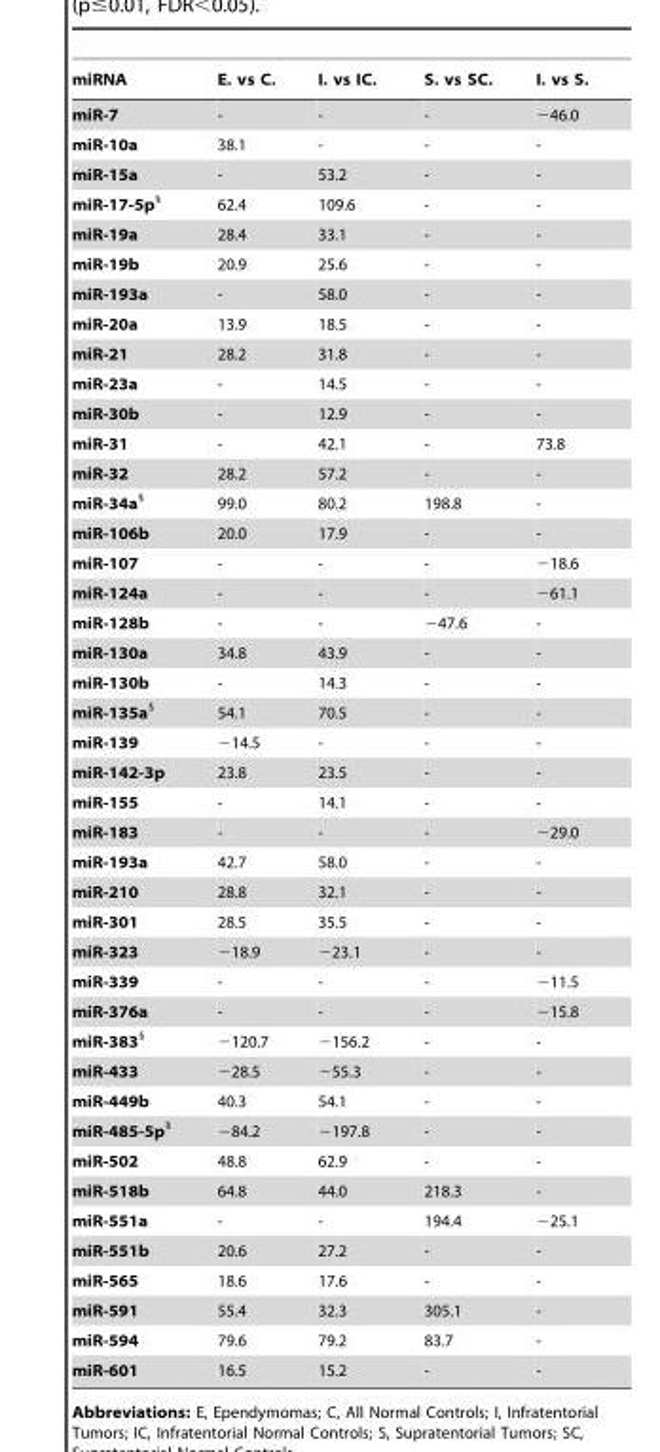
<table><thead><tr><td>miRNA</td><td>E. vs C.</td><td>I. vs IC.</td><td>S. vs SC.</td><td>I. vs S.</td></tr></thead><tbody><tr><td>miR-7</td><td>-</td><td>-</td><td>-</td><td>−46.0</td></tr><tr><td>miR-10a</td><td>38.1</td><td>-</td><td>-</td><td>-</td></tr><tr><td>miR-15a</td><td>-</td><td>53.2</td><td>-</td><td>-</td></tr><tr><td>miR-17-5p§</td><td>62.4</td><td>109.6</td><td>-</td><td>-</td></tr><tr><td>miR-19a</td><td>28.4</td><td>33.1</td><td>-</td><td>-</td></tr><tr><td>miR-19b</td><td>20.9</td><td>25.6</td><td>-</td><td>-</td></tr><tr><td>miR-193a</td><td>-</td><td>58.0</td><td>-</td><td>-</td></tr><tr><td>miR-20a</td><td>13.9</td><td>18.5</td><td>-</td><td>-</td></tr><tr><td>miR-21</td><td>28.2</td><td>31.8</td><td>-</td><td>-</td></tr><tr><td>miR-23a</td><td>-</td><td>14.5</td><td>-</td><td>-</td></tr><tr><td>miR-30b</td><td>-</td><td>12.9</td><td>-</td><td>-</td></tr><tr><td>miR-31</td><td>-</td><td>42.1</td><td>-</td><td>73.8</td></tr><tr><td>miR-32</td><td>28.2</td><td>57.2</td><td>-</td><td>-</td></tr><tr><td>miR-34a§</td><td>99.0</td><td>80.2</td><td>198.8</td><td>-</td></tr><tr><td>miR-106b</td><td>20.0</td><td>17.9</td><td>-</td><td>-</td></tr><tr><td>miR-107</td><td>-</td><td>-</td><td>-</td><td>−18.6</td></tr><tr><td>miR-124a</td><td>-</td><td>-</td><td>-</td><td>−61.1</td></tr><tr><td>miR-128b</td><td>-</td><td>-</td><td>−47.6</td><td>-</td></tr><tr><td>miR-130a</td><td>34.8</td><td>43.9</td><td>-</td><td>-</td></tr><tr><td>miR-130b</td><td>-</td><td>14.3</td><td>-</td><td>-</td></tr><tr><td>miR-135a§</td><td>54.1</td><td>70.5</td><td>-</td><td>-</td></tr><tr><td>miR-139</td><td>−14.5</td><td>-</td><td>-</td><td>-</td></tr><tr><td>miR-142-3p</td><td>23.8</td><td>23.5</td><td>-</td><td>-</td></tr><tr><td>miR-155</td><td>-</td><td>14.1</td><td>-</td><td>-</td></tr><tr><td>miR-183</td><td>-</td><td>-</td><td>-</td><td>−29.0</td></tr><tr><td>miR-193a</td><td>42.7</td><td>58.0</td><td>-</td><td>-</td></tr><tr><td>miR-210</td><td>28.8</td><td>32.1</td><td>-</td><td>-</td></tr><tr><td>miR-301</td><td>28.5</td><td>35.5</td><td>-</td><td>-</td></tr><tr><td>miR-323</td><td>−18.9</td><td>−23.1</td><td>-</td><td>-</td></tr><tr><td>miR-339</td><td>-</td><td>-</td><td>-</td><td>−11.5</td></tr><tr><td>miR-376a</td><td>-</td><td>-</td><td>-</td><td>−15.8</td></tr><tr><td>miR-383§</td><td>−120.7</td><td>−156.2</td><td>-</td><td>-</td></tr><tr><td>miR-433</td><td>−28.5</td><td>−55.3</td><td>-</td><td>-</td></tr><tr><td>miR-449b</td><td>40.3</td><td>54.1</td><td>-</td><td>-</td></tr><tr><td>miR-485-5p§</td><td>−84.2</td><td>−197.8</td><td>-</td><td>-</td></tr><tr><td>miR-502</td><td>48.8</td><td>62.9</td><td>-</td><td>-</td></tr><tr><td>miR-518b</td><td>64.8</td><td>44.0</td><td>218.3</td><td>-</td></tr><tr><td>miR-551a</td><td>-</td><td>-</td><td>194.4</td><td>−25.1</td></tr><tr><td>miR-551b</td><td>20.6</td><td>27.2</td><td>-</td><td>-</td></tr><tr><td>miR-565</td><td>18.6</td><td>17.6</td><td>-</td><td>-</td></tr><tr><td>miR-591</td><td>55.4</td><td>32.3</td><td>305.1</td><td>-</td></tr><tr><td>miR-594</td><td>79.6</td><td>79.2</td><td>83.7</td><td>-</td></tr><tr><td>miR-601</td><td>16.5</td><td>15.2</td><td>-</td><td>-</td></tr></tbody></table>